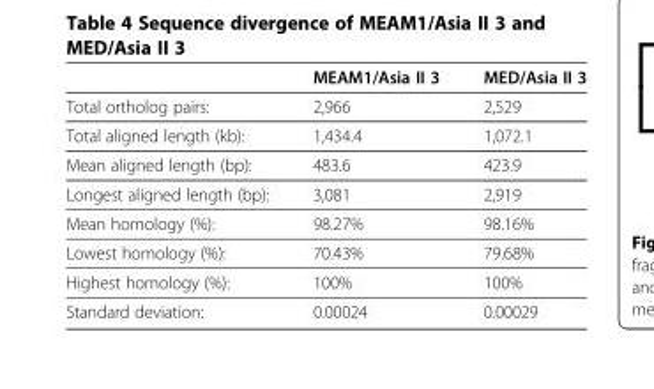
<table><thead><tr><td></td><td>MEAM1/Asia II 3</td><td>MED/Asia II 3</td></tr></thead><tbody><tr><td>Total ortholog pairs:</td><td>2,966</td><td>2,529</td></tr><tr><td>Total aligned length (kb):</td><td>1,434.4</td><td>1,072.1</td></tr><tr><td>Mean aligned length (bp):</td><td>483.6</td><td>423.9</td></tr><tr><td>Longest aligned length (bp):</td><td>3,081</td><td>2,919</td></tr><tr><td>Mean homology (%):</td><td>98.27%</td><td>98.16%</td></tr><tr><td>Lowest homology (%):</td><td>70.43%</td><td>79.68%</td></tr><tr><td>Highest homology (%):</td><td>100%</td><td>100%</td></tr><tr><td>Standard deviation:</td><td>0.00024</td><td>0.00029</td></tr></tbody></table>